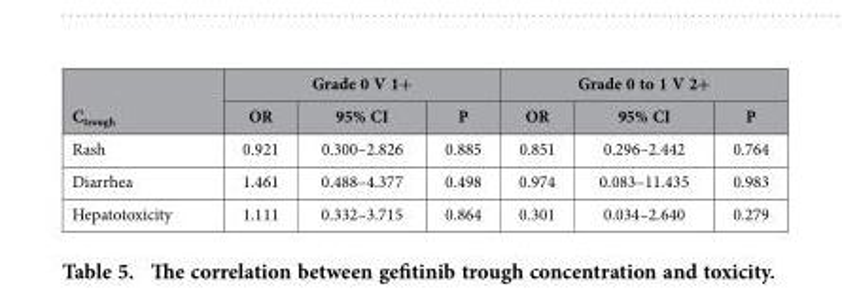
<table><thead><tr><td rowspan="2">C<sub>trough</sub></td><td colspan="3">Grade 0 V 1+</td><td colspan="3">Grade 0 to 1 V 2+</td></tr><tr><td>OR</td><td>95% CI</td><td>P</td><td>OR</td><td>95% CI</td><td>P</td></tr></thead><tbody><tr><td>Rash</td><td>0.921</td><td>0.300–2.826</td><td>0.885</td><td>0.851</td><td>0.296–2.442</td><td>0.764</td></tr><tr><td>Diarrhea</td><td>1.461</td><td>0.488–4.377</td><td>0.498</td><td>0.974</td><td>0.083–11.435</td><td>0.983</td></tr><tr><td>Hepatotoxicity</td><td>1.111</td><td>0.332–3.715</td><td>0.864</td><td>0.301</td><td>0.034–2.640</td><td>0.279</td></tr></tbody></table>